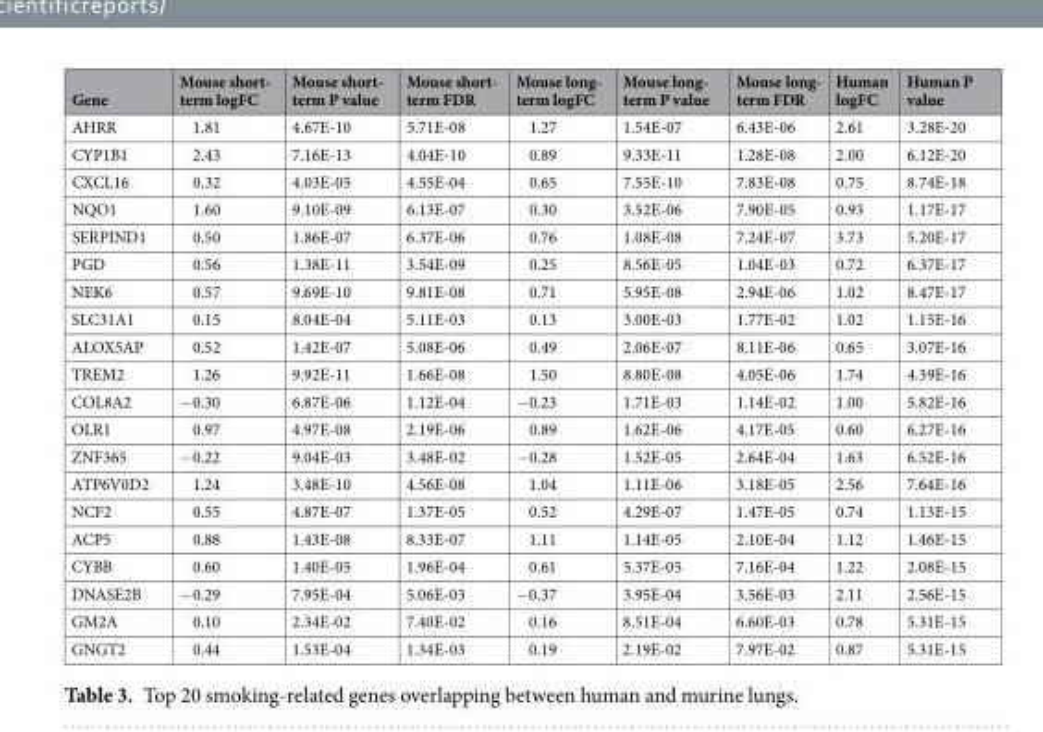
<table><thead><tr><td>Gene</td><td>Mouse short- term logFC</td><td>Mouse short- term P value</td><td>Mouse short- term FDR</td><td>Mouse long- term logFC</td><td>Mouse long- term P value</td><td>Mouse long- term FDR</td><td>Human logFC</td><td>Human P value</td></tr></thead><tbody><tr><td>AHRR</td><td>1.81</td><td>4.67E-10</td><td>5.71E-08</td><td>1.27</td><td>1.54E-07</td><td>6.43E-06</td><td>2.61</td><td>3.28E-20</td></tr><tr><td>CYP1B1</td><td>2.43</td><td>7.16E-13</td><td>4.04E-10</td><td>0.89</td><td>9.33E-11</td><td>1.28E-08</td><td>2.00</td><td>6.12E-20</td></tr><tr><td>CXCL16</td><td>0.32</td><td>4.03E-05</td><td>4.55E-04</td><td>0.65</td><td>7.55E-10</td><td>7.83E-08</td><td>0.75</td><td>8.74E-18</td></tr><tr><td>NQO1</td><td>1.60</td><td>9.10E-09</td><td>6.13E-07</td><td>0.30</td><td>3.52E-06</td><td>7.90E-05</td><td>0.93</td><td>1.17E-17</td></tr><tr><td>SERPIND1</td><td>0.50</td><td>1.86E-07</td><td>6.37E-06</td><td>0.76</td><td>1.08E-08</td><td>7.24E-07</td><td>3.73</td><td>5.20E-17</td></tr><tr><td>PGD</td><td>0.56</td><td>1.38E-11</td><td>3.54E-09</td><td>0.25</td><td>8.56E-05</td><td>1.04E-03</td><td>0.72</td><td>6.37E-17</td></tr><tr><td>NEK6</td><td>0.57</td><td>9.69E-10</td><td>9.81E-08</td><td>0.71</td><td>5.95E-08</td><td>2.94E-06</td><td>1.02</td><td>8.47E-17</td></tr><tr><td>SLC31A1</td><td>0.15</td><td>8.04E-04</td><td>5.11E-03</td><td>0.13</td><td>3.00E-03</td><td>1.77E-02</td><td>1.02</td><td>1.15E-16</td></tr><tr><td>ALOX5AP</td><td>0.52</td><td>1.42E-07</td><td>5.08E-06</td><td>0.49</td><td>2.06E-07</td><td>8.11E-06</td><td>0.65</td><td>3.07E-16</td></tr><tr><td>TREM2</td><td>1.26</td><td>9.92E-11</td><td>1.66E-08</td><td>1.50</td><td>8.80E-08</td><td>4.05E-06</td><td>1.74</td><td>4.39E-16</td></tr><tr><td>COL8A2</td><td>−0.30</td><td>6.87E-06</td><td>1.12E-04</td><td>−0.23</td><td>1.71E-03</td><td>1.14E-02</td><td>1.00</td><td>5.82E-16</td></tr><tr><td>OLR1</td><td>0.97</td><td>4.97E-08</td><td>2.19E-06</td><td>0.89</td><td>1.62E-06</td><td>4.17E-05</td><td>0.60</td><td>6.27E-16</td></tr><tr><td>ZNF365</td><td>−0.22</td><td>9.04E-03</td><td>3.48E-02</td><td>−0.28</td><td>1.52E-05</td><td>2.64E-04</td><td>1.63</td><td>6.52E-16</td></tr><tr><td>ATP6V0D2</td><td>1.24</td><td>3.48E-10</td><td>4.56E-08</td><td>1.04</td><td>1.11E-06</td><td>3.18E-05</td><td>2.56</td><td>7.64E-16</td></tr><tr><td>NCF2</td><td>0.55</td><td>4.87E-07</td><td>1.37E-05</td><td>0.52</td><td>4.29E-07</td><td>1.47E-05</td><td>0.74</td><td>1.13E-15</td></tr><tr><td>ACP5</td><td>0.88</td><td>1.43E-08</td><td>8.33E-07</td><td>1.11</td><td>1.14E-05</td><td>2.10E-04</td><td>1.12</td><td>1.46E-15</td></tr><tr><td>CYBB</td><td>0.60</td><td>1.40E-05</td><td>1.96E-04</td><td>0.61</td><td>5.37E-05</td><td>7.16E-04</td><td>1.22</td><td>2.08E-15</td></tr><tr><td>DNASE2B</td><td>−0.29</td><td>7.95E-04</td><td>5.06E-03</td><td>−0.37</td><td>3.95E-04</td><td>3.56E-03</td><td>2.11</td><td>2.56E-15</td></tr><tr><td>GM2A</td><td>0.10</td><td>2.34E-02</td><td>7.40E-02</td><td>0.16</td><td>8.51E-04</td><td>6.60E-03</td><td>0.78</td><td>5.31E-15</td></tr><tr><td>GNGT2</td><td>0.44</td><td>1.53E-04</td><td>1.34E-03</td><td>0.19</td><td>2.19E-02</td><td>7.97E-02</td><td>0.87</td><td>5.31E-15</td></tr></tbody></table>